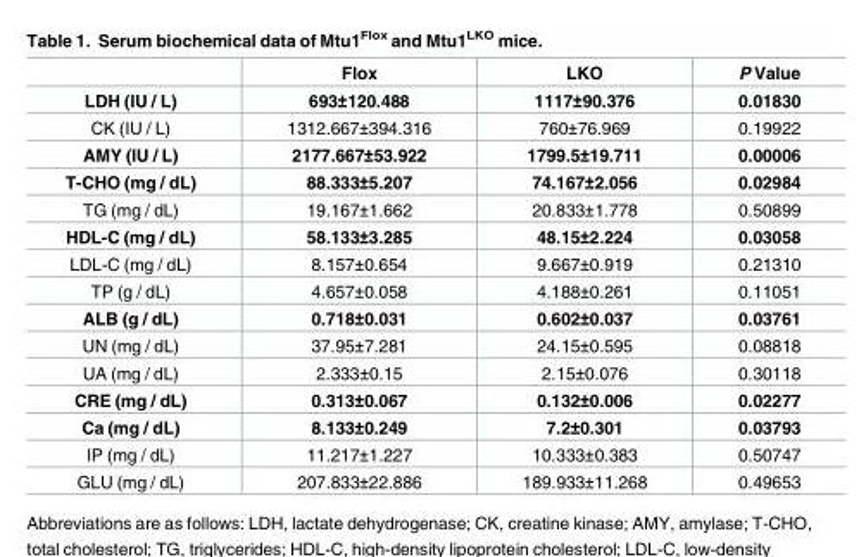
<table><thead><tr><td></td><td>Flox</td><td>LKO</td><td>P Value</td></tr></thead><tbody><tr><td>LDH (IU / L)</td><td>693±120.488</td><td>1117±90.376</td><td>0.01830</td></tr><tr><td>CK (IU / L)</td><td>1312.667±394.316</td><td>760±76.969</td><td>0.19922</td></tr><tr><td>AMY (IU / L)</td><td>2177.667±53.922</td><td>1799.5±19.711</td><td>0.00006</td></tr><tr><td>T-CHO (mg / dL)</td><td>88.333±5.207</td><td>74.167±2.056</td><td>0.02984</td></tr><tr><td>TG (mg / dL)</td><td>19.167±1.662</td><td>20.833±1.778</td><td>0.50899</td></tr><tr><td>HDL-C (mg / dL)</td><td>58.133±3.285</td><td>48.15±2.224</td><td>0.03058</td></tr><tr><td>LDL-C (mg / dL)</td><td>8.157±0.654</td><td>9.667±0.919</td><td>0.21310</td></tr><tr><td>TP (g / dL)</td><td>4.657±0.058</td><td>4.188±0.261</td><td>0.11051</td></tr><tr><td>ALB (g / dL)</td><td>0.718±0.031</td><td>0.602±0.037</td><td>0.03761</td></tr><tr><td>UN (mg / dL)</td><td>37.95±7.281</td><td>24.15±0.595</td><td>0.08818</td></tr><tr><td>UA (mg / dL)</td><td>2.333±0.15</td><td>2.15±0.076</td><td>0.30118</td></tr><tr><td>CRE (mg / dL)</td><td>0.313±0.067</td><td>0.132±0.006</td><td>0.02277</td></tr><tr><td>Ca (mg / dL)</td><td>8.133±0.249</td><td>7.2±0.301</td><td>0.03793</td></tr><tr><td>IP (mg / dL)</td><td>11.217±1.227</td><td>10.333±0.383</td><td>0.50747</td></tr><tr><td>GLU (mg / dL)</td><td>207.833±22.886</td><td>189.933±11.268</td><td>0.49653</td></tr></tbody></table>